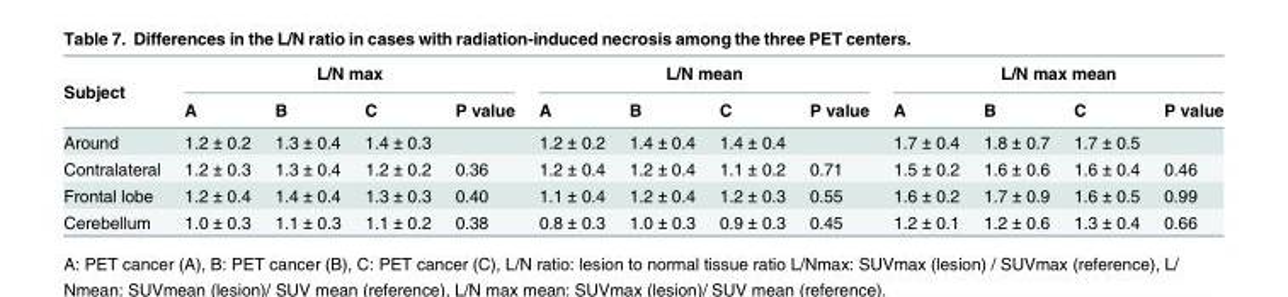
<table><thead><tr><td rowspan="2">Subject</td><td colspan="4">L/N max</td><td colspan="4">L/N mean</td><td colspan="4">L/N max mean</td></tr><tr><td>A</td><td>B</td><td>C</td><td>P value</td><td>A</td><td>B</td><td>C</td><td>P value</td><td>A</td><td>B</td><td>C</td><td>P value</td></tr></thead><tbody><tr><td>Around</td><td>1.2 ± 0.2</td><td>1.3 ± 0.4</td><td>1.4 ± 0.3</td><td></td><td>1.2 ± 0.2</td><td>1.4 ± 0.4</td><td>1.4 ± 0.4</td><td></td><td>1.7 ± 0.4</td><td>1.8 ± 0.7</td><td>1.7 ± 0.5</td><td></td></tr><tr><td>Contralateral</td><td>1.2 ± 0.3</td><td>1.3 ± 0.4</td><td>1.2 ± 0.2</td><td>0.36</td><td>1.2 ± 0.4</td><td>1.2 ± 0.4</td><td>1.1 ± 0.2</td><td>0.71</td><td>1.5 ± 0.2</td><td>1.6 ± 0.6</td><td>1.6 ± 0.4</td><td>0.46</td></tr><tr><td>Frontal lobe</td><td>1.2 ± 0.4</td><td>1.4 ± 0.4</td><td>1.3 ± 0.3</td><td>0.40</td><td>1.1 ± 0.4</td><td>1.2 ± 0.4</td><td>1.2 ± 0.3</td><td>0.55</td><td>1.6 ± 0.2</td><td>1.7 ± 0.9</td><td>1.6 ± 0.5</td><td>0.99</td></tr><tr><td>Cerebellum</td><td>1.0 ± 0.3</td><td>1.1 ± 0.3</td><td>1.1 ± 0.2</td><td>0.38</td><td>0.8 ± 0.3</td><td>1.0 ± 0.3</td><td>0.9 ± 0.3</td><td>0.45</td><td>1.2 ± 0.1</td><td>1.2 ± 0.6</td><td>1.3 ± 0.4</td><td>0.66</td></tr></tbody></table>